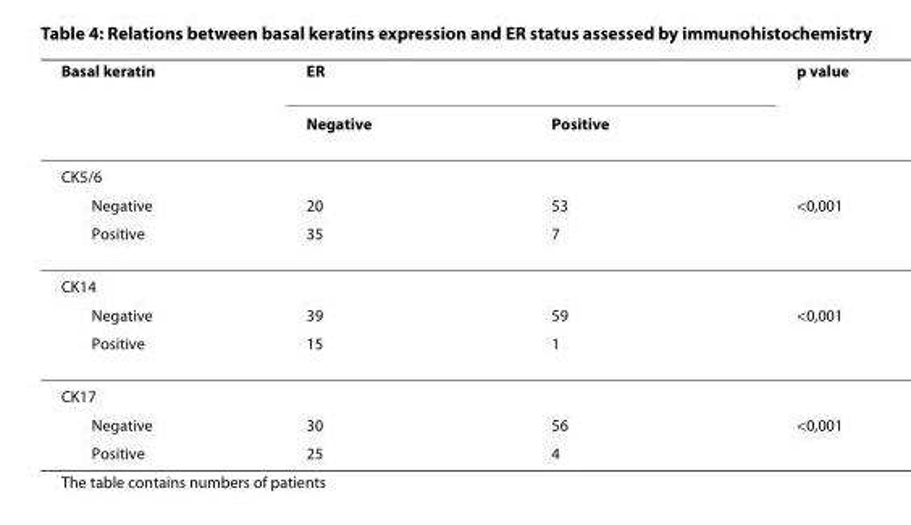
<table><thead><tr><td rowspan="2">Basal keratin</td><td colspan="2">ER</td><td rowspan="2">p value</td></tr><tr><td>Negative</td><td>Positive</td></tr></thead><tbody><tr><td colspan="4">CK5/6</td></tr><tr><td>Negative</td><td>20</td><td>53</td><td>&lt;0,001</td></tr><tr><td>Positive</td><td>35</td><td>7</td><td></td></tr><tr><td colspan="4">CK14</td></tr><tr><td>Negative</td><td>39</td><td>59</td><td>&lt;0,001</td></tr><tr><td>Positive</td><td>15</td><td>1</td><td></td></tr><tr><td colspan="4">CK17</td></tr><tr><td>Negative</td><td>30</td><td>56</td><td>&lt;0,001</td></tr><tr><td>Positive</td><td>25</td><td>4</td><td></td></tr></tbody></table>